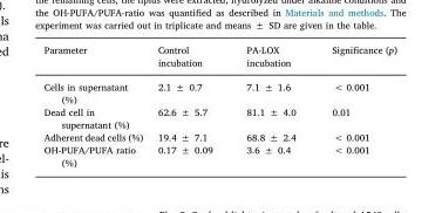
<table><thead><tr><td>Parameter</td><td>Control incubation</td><td>PA-LOX incubation</td><td>Significance (p)</td></tr></thead><tbody><tr><td>Cells in supernatant (%)</td><td>2.1 ± 0.7</td><td>7.1 ± 1.6</td><td>&lt; 0.001</td></tr><tr><td>Dead cell in supernatant (%)</td><td>62.6 ± 5.7</td><td>81.1 ± 4.0</td><td>0.01</td></tr><tr><td>Adherent dead cells (%)</td><td>19.4 ± 7.1</td><td>68.8 ± 2.4</td><td>&lt; 0.001</td></tr><tr><td>OH-PUFA/PUFA ratio (%)</td><td>0.17 ± 0.09</td><td>3.6 ± 0.4</td><td>&lt; 0.001</td></tr></tbody></table>